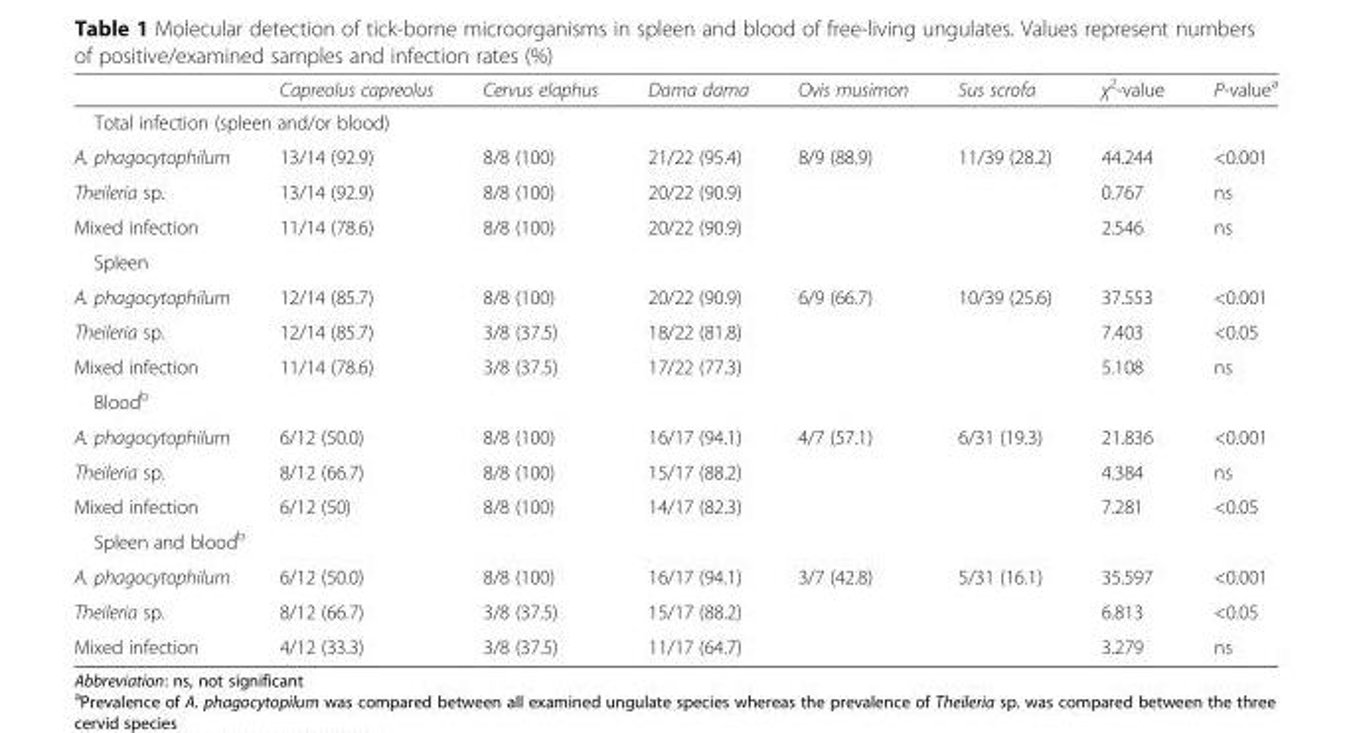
<table><thead><tr><td></td><td>Capreolus capreolus</td><td>Cervus elaphus</td><td>Dama dama</td><td>Ovis musimon</td><td>Sus scrofa</td><td>χ<sup>2</sup>-value</td><td>P-value<sup>a</sup></td></tr></thead><tbody><tr><td colspan="8">Total infection (spleen and/or blood)</td></tr><tr><td>A. phagocytophilum</td><td>13/14 (92.9)</td><td>8/8 (100)</td><td>21/22 (95.4)</td><td>8/9 (88.9)</td><td>11/39 (28.2)</td><td>44.244</td><td>&lt;0.001</td></tr><tr><td>Theileria sp.</td><td>13/14 (92.9)</td><td>8/8 (100)</td><td>20/22 (90.9)</td><td></td><td></td><td>0.767</td><td>ns</td></tr><tr><td>Mixed infection</td><td>11/14 (78.6)</td><td>8/8 (100)</td><td>20/22 (90.9)</td><td></td><td></td><td>2.546</td><td>ns</td></tr><tr><td colspan="8">Spleen</td></tr><tr><td>A. phagocytophilum</td><td>12/14 (85.7)</td><td>8/8 (100)</td><td>20/22 (90.9)</td><td>6/9 (66.7)</td><td>10/39 (25.6)</td><td>37.553</td><td>&lt;0.001</td></tr><tr><td>Theileria sp.</td><td>12/14 (85.7)</td><td>3/8 (37.5)</td><td>18/22 (81.8)</td><td></td><td></td><td>7.403</td><td>&lt;0.05</td></tr><tr><td>Mixed infection</td><td>11/14 (78.6)</td><td>3/8 (37.5)</td><td>17/22 (77.3)</td><td></td><td></td><td>5.108</td><td>ns</td></tr><tr><td colspan="8">Blood<sup>b</sup></td></tr><tr><td>A. phagocytophilum</td><td>6/12 (50.0)</td><td>8/8 (100)</td><td>16/17 (94.1)</td><td>4/7 (57.1)</td><td>6/31 (19.3)</td><td>21.836</td><td>&lt;0.001</td></tr><tr><td>Theileria sp.</td><td>8/12 (66.7)</td><td>8/8 (100)</td><td>15/17 (88.2)</td><td></td><td></td><td>4.384</td><td>ns</td></tr><tr><td>Mixed infection</td><td>6/12 (50)</td><td>8/8 (100)</td><td>14/17 (82.3)</td><td></td><td></td><td>7.281</td><td>&lt;0.05</td></tr><tr><td colspan="8">Spleen and blood<sup>b</sup></td></tr><tr><td>A. phagocytophilum</td><td>6/12 (50.0)</td><td>8/8 (100)</td><td>16/17 (94.1)</td><td>3/7 (42.8)</td><td>5/31 (16.1)</td><td>35.597</td><td>&lt;0.001</td></tr><tr><td>Theileria sp.</td><td>8/12 (66.7)</td><td>3/8 (37.5)</td><td>15/17 (88.2)</td><td></td><td></td><td>6.813</td><td>&lt;0.05</td></tr><tr><td>Mixed infection</td><td>4/12 (33.3)</td><td>3/8 (37.5)</td><td>11/17 (64.7)</td><td></td><td></td><td>3.279</td><td>ns</td></tr></tbody></table>